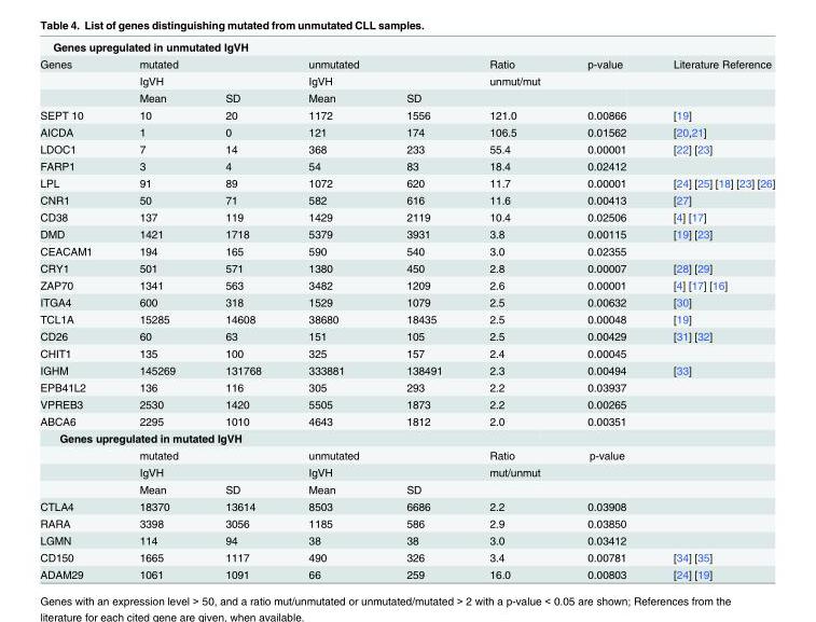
<table><tbody><tr><td colspan="8">Genes upregulated in unmutated IgVH</td></tr><tr><td rowspan="3">Genes</td><td>mutated</td><td></td><td>unmutated</td><td></td><td>Ratio</td><td>p-value</td><td>Literature Reference</td></tr><tr><td>IgVH</td><td></td><td>IgVH</td><td></td><td>unmut/mut</td><td></td><td></td></tr><tr><td>Mean</td><td>SD</td><td>Mean</td><td>SD</td><td></td><td></td><td></td></tr><tr><td>SEPT 10</td><td>10</td><td>20</td><td>1172</td><td>1556</td><td>121.0</td><td>0.00866</td><td>[19]</td></tr><tr><td>AICDA</td><td>1</td><td>0</td><td>121</td><td>174</td><td>106.5</td><td>0.01562</td><td>[20,21]</td></tr><tr><td>LDOC1</td><td>7</td><td>14</td><td>368</td><td>233</td><td>55.4</td><td>0.00001</td><td>[22] [23]</td></tr><tr><td>FARP1</td><td>3</td><td>4</td><td>54</td><td>83</td><td>18.4</td><td>0.02412</td><td></td></tr><tr><td>LPL</td><td>91</td><td>89</td><td>1072</td><td>620</td><td>11.7</td><td>0.00001</td><td>[24] [25] [18] [23] [26]</td></tr><tr><td>CNR1</td><td>50</td><td>71</td><td>582</td><td>616</td><td>11.6</td><td>0.00413</td><td>[27]</td></tr><tr><td>CD38</td><td>137</td><td>119</td><td>1429</td><td>2119</td><td>10.4</td><td>0.02506</td><td>[4] [17]</td></tr><tr><td>DMD</td><td>1421</td><td>1718</td><td>5379</td><td>3931</td><td>3.8</td><td>0.00115</td><td>[19] [23]</td></tr><tr><td>CEACAM1</td><td>194</td><td>165</td><td>590</td><td>540</td><td>3.0</td><td>0.02355</td><td></td></tr><tr><td>CRY1</td><td>501</td><td>571</td><td>1380</td><td>450</td><td>2.8</td><td>0.00007</td><td>[28] [29]</td></tr><tr><td>ZAP70</td><td>1341</td><td>563</td><td>3482</td><td>1209</td><td>2.6</td><td>0.00001</td><td>[4] [17] [16]</td></tr><tr><td>ITGA4</td><td>600</td><td>318</td><td>1529</td><td>1079</td><td>2.5</td><td>0.00632</td><td>[30]</td></tr><tr><td>TCL1A</td><td>15285</td><td>14608</td><td>38680</td><td>18435</td><td>2.5</td><td>0.00048</td><td>[19]</td></tr><tr><td>CD26</td><td>60</td><td>63</td><td>151</td><td>105</td><td>2.5</td><td>0.00429</td><td>[31] [32]</td></tr><tr><td>CHIT1</td><td>135</td><td>100</td><td>325</td><td>157</td><td>2.4</td><td>0.00045</td><td></td></tr><tr><td>IGHM</td><td>145269</td><td>131768</td><td>333881</td><td>138491</td><td>2.3</td><td>0.00494</td><td>[33]</td></tr><tr><td>EPB41L2</td><td>136</td><td>116</td><td>305</td><td>293</td><td>2.2</td><td>0.03937</td><td></td></tr><tr><td>VPREB3</td><td>2530</td><td>1420</td><td>5505</td><td>1873</td><td>2.2</td><td>0.00265</td><td></td></tr><tr><td>ABCA6</td><td>2295</td><td>1010</td><td>4643</td><td>1812</td><td>2.0</td><td>0.00351</td><td></td></tr><tr><td colspan="8">Genes upregulated in mutated IgVH</td></tr><tr><td></td><td>mutated</td><td></td><td>unmutated</td><td></td><td>Ratio</td><td>p-value</td><td></td></tr><tr><td></td><td>IgVH</td><td></td><td>IgVH</td><td></td><td>mut/unmut</td><td></td><td></td></tr><tr><td></td><td>Mean</td><td>SD</td><td>Mean</td><td>SD</td><td></td><td></td><td></td></tr><tr><td>CTLA4</td><td>18370</td><td>13614</td><td>8503</td><td>6686</td><td>2.2</td><td>0.03908</td><td></td></tr><tr><td>RARA</td><td>3398</td><td>3056</td><td>1185</td><td>586</td><td>2.9</td><td>0.03850</td><td></td></tr><tr><td>LGMN</td><td>114</td><td>94</td><td>38</td><td>38</td><td>3.0</td><td>0.03412</td><td></td></tr><tr><td>CD150</td><td>1665</td><td>1117</td><td>490</td><td>326</td><td>3.4</td><td>0.00781</td><td>[34] [35]</td></tr><tr><td>ADAM29</td><td>1061</td><td>1091</td><td>66</td><td>259</td><td>16.0</td><td>0.00803</td><td>[24] [19]</td></tr></tbody></table>